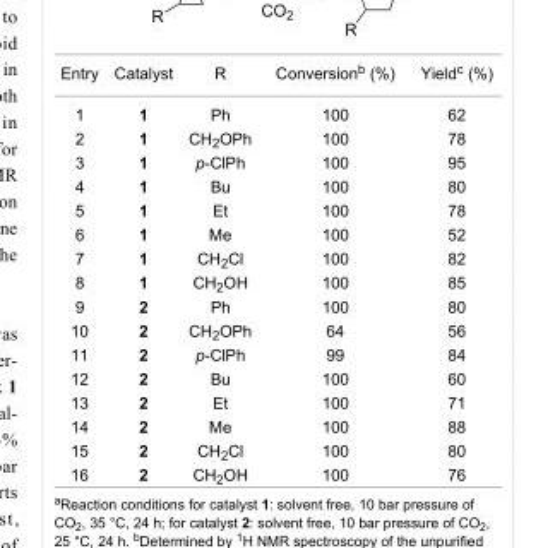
<table><tbody><tr><td>Entry</td><td>Catalyst</td><td>R</td><td>Conversion<sup>b</sup> (%)</td><td>Yield<sup>c</sup> (%)</td></tr><tr><td>1</td><td>1</td><td>Ph</td><td>100</td><td>62</td></tr><tr><td>2</td><td>1</td><td>CH<sub>2</sub>OPh</td><td>100</td><td>78</td></tr><tr><td>3</td><td>1</td><td>p-ClPh</td><td>100</td><td>95</td></tr><tr><td>4</td><td>1</td><td>Bu</td><td>100</td><td>80</td></tr><tr><td>5</td><td>1</td><td>Et</td><td>100</td><td>78</td></tr><tr><td>6</td><td>1</td><td>Me</td><td>100</td><td>52</td></tr><tr><td>7</td><td>1</td><td>CH<sub>2</sub>Cl</td><td>100</td><td>82</td></tr><tr><td>8</td><td>1</td><td>CH<sub>2</sub>OH</td><td>100</td><td>85</td></tr><tr><td>9</td><td>2</td><td>Ph</td><td>100</td><td>80</td></tr><tr><td>10</td><td>2</td><td>CH<sub>2</sub>OPh</td><td>64</td><td>56</td></tr><tr><td>11</td><td>2</td><td>p-ClPh</td><td>99</td><td>84</td></tr><tr><td>12</td><td>2</td><td>Bu</td><td>100</td><td>60</td></tr><tr><td>13</td><td>2</td><td>Et</td><td>100</td><td>71</td></tr><tr><td>14</td><td>2</td><td>Me</td><td>100</td><td>88</td></tr><tr><td>15</td><td>2</td><td>CH<sub>2</sub>Cl</td><td>100</td><td>80</td></tr><tr><td>16</td><td>2</td><td>CH<sub>2</sub>OH</td><td>100</td><td>76</td></tr></tbody></table>